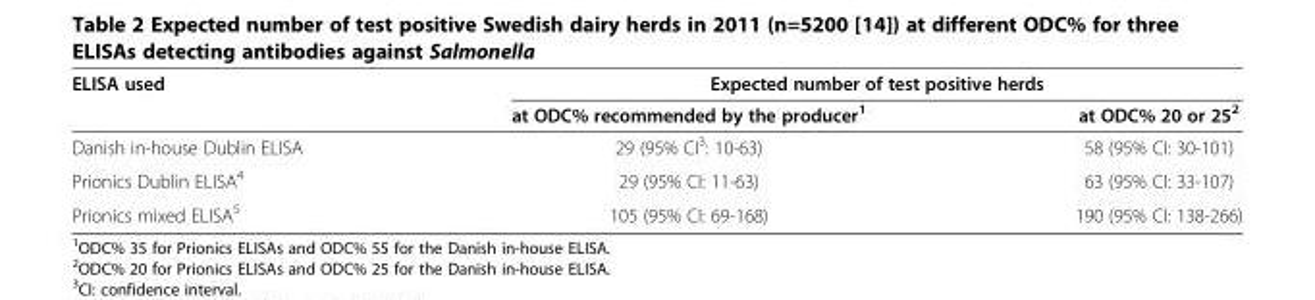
<table><thead><tr><td rowspan="2">ELISA used</td><td colspan="2">Expected number of test positive herds</td></tr><tr><td>at ODC% recommended by the producer<sup>1</sup></td><td>at ODC% 20 or 25<sup>2</sup></td></tr></thead><tbody><tr><td>Danish in-house Dublin ELISA</td><td>29 (95% CI<sup>3</sup>: 10-63)</td><td>58 (95% CI: 30-101)</td></tr><tr><td>Prionics Dublin ELISA<sup>4</sup></td><td>29 (95% CI: 11-63)</td><td>63 (95% CI: 33-107)</td></tr><tr><td>Prionics mixed ELISA<sup>5</sup></td><td>105 (95% CI: 69-168)</td><td>190 (95% CI: 138-266)</td></tr></tbody></table>